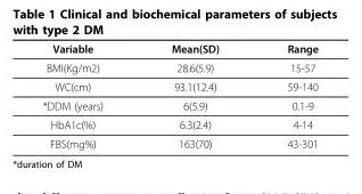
<table><thead><tr><td>Variable</td><td>Mean(SD)</td><td>Range</td></tr></thead><tbody><tr><td>BMI(Kg/m2)</td><td>28.6(5.9)</td><td>15-57</td></tr><tr><td>WC(cm)</td><td>93.1(12.4)</td><td>59-140</td></tr><tr><td>*DDM (years)</td><td>6(5.9)</td><td>0.1-9</td></tr><tr><td>HbA1c(%)</td><td>6.3(2.4)</td><td>4-14</td></tr><tr><td>FBS(mg%)</td><td>163(70)</td><td>43-301</td></tr></tbody></table>